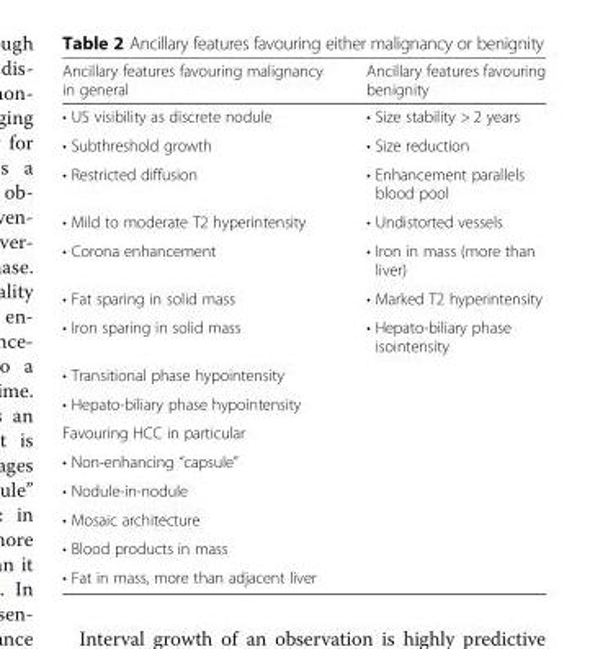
<table><thead><tr><td>Ancillary features favouring malignancy in general</td><td>Ancillary features favouring benignity</td></tr></thead><tbody><tr><td>• US visibility as discrete nodule</td><td>• Size stability &gt; 2 years</td></tr><tr><td>• Subthreshold growth</td><td>• Size reduction</td></tr><tr><td>• Restricted diffusion</td><td>• Enhancement parallels blood pool</td></tr><tr><td>• Mild to moderate T2 hyperintensity</td><td>• Undistorted vessels</td></tr><tr><td>• Corona enhancement</td><td>• Iron in mass (more than liver)</td></tr><tr><td>• Fat sparing in solid mass</td><td>• Marked T2 hyperintensity</td></tr><tr><td>• Iron sparing in solid mass</td><td>• Hepato-biliary phase isointensity</td></tr><tr><td colspan="2">• Transitional phase hypointensity</td></tr><tr><td colspan="2">• Hepato-biliary phase hypointensity</td></tr><tr><td colspan="2">Favouring HCC in particular</td></tr><tr><td colspan="2">• Non-enhancing “capsule”</td></tr><tr><td colspan="2">• Nodule-in-nodule</td></tr><tr><td colspan="2">• Mosaic architecture</td></tr><tr><td colspan="2">• Blood products in mass</td></tr><tr><td>• Fat in mass, more than adjacent liver</td><td></td></tr></tbody></table>